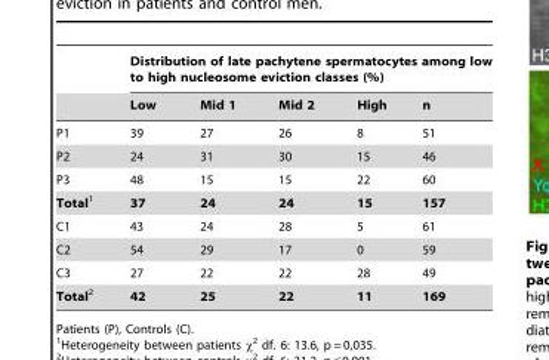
<table><thead><tr><td rowspan="2"></td><td colspan="5">Distribution of late pachytene spermatocytes among low to high nucleosome eviction classes (%)</td></tr><tr><td>Low</td><td>Mid 1</td><td>Mid 2</td><td>High</td><td>n</td></tr></thead><tbody><tr><td>P1</td><td>39</td><td>27</td><td>26</td><td>8</td><td>51</td></tr><tr><td>P2</td><td>24</td><td>31</td><td>30</td><td>15</td><td>46</td></tr><tr><td>P3</td><td>48</td><td>15</td><td>15</td><td>22</td><td>60</td></tr><tr><td>Total1</td><td>37</td><td>24</td><td>24</td><td>15</td><td>157</td></tr><tr><td>C1</td><td>43</td><td>24</td><td>28</td><td>5</td><td>61</td></tr><tr><td>C2</td><td>54</td><td>29</td><td>17</td><td>0</td><td>59</td></tr><tr><td>C3</td><td>27</td><td>22</td><td>22</td><td>28</td><td>49</td></tr><tr><td>Total2</td><td>42</td><td>25</td><td>22</td><td>11</td><td>169</td></tr></tbody></table>